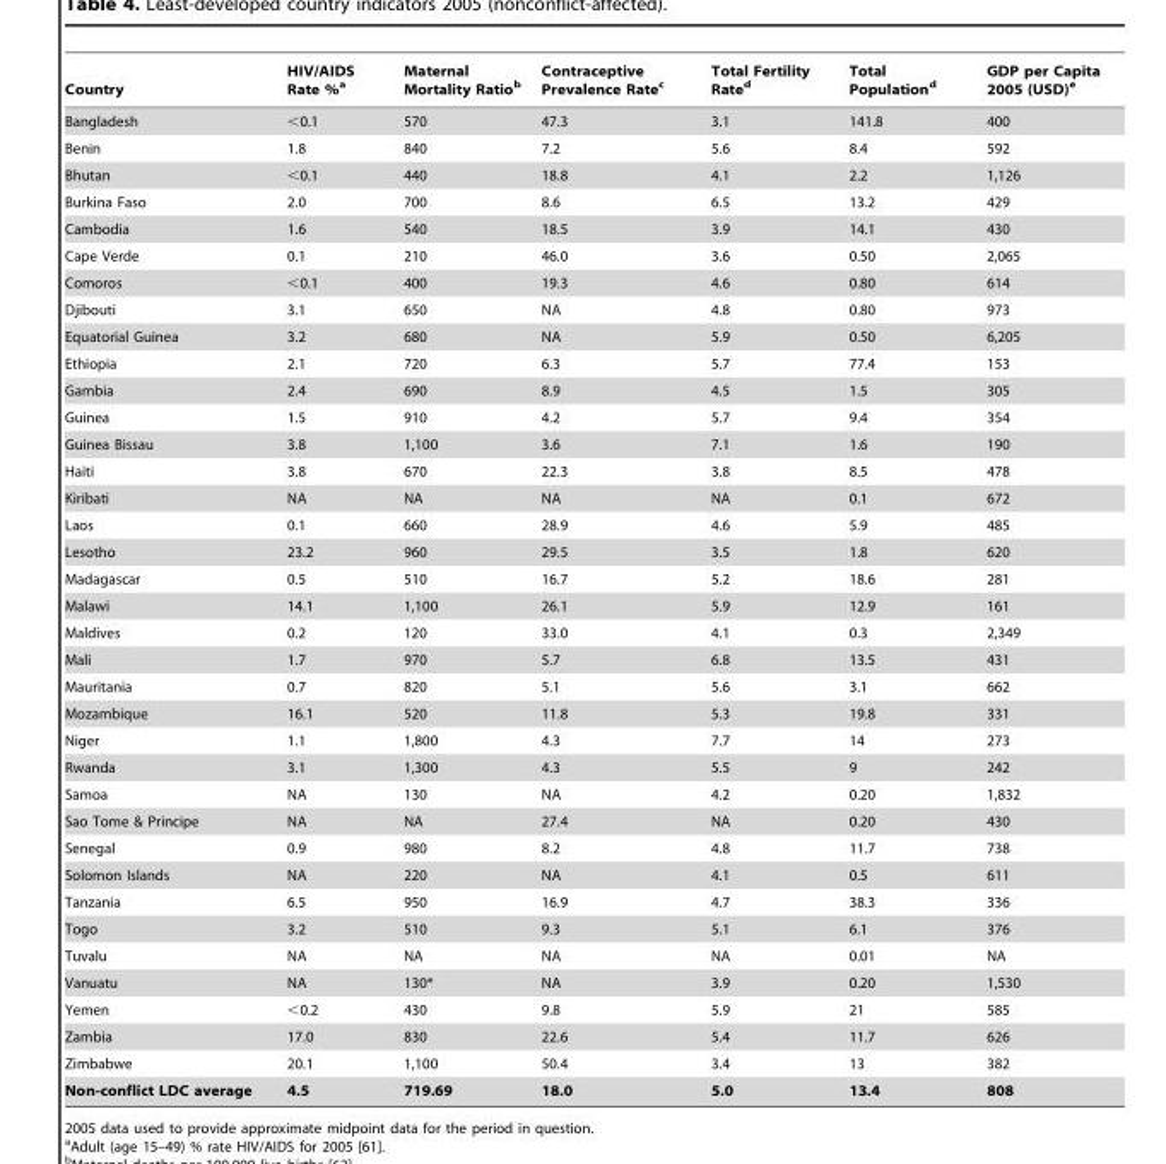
<table><thead><tr><td>Country</td><td>HIV/AIDS Rate %<sup>a</sup></td><td>Maternal Mortality Ratio<sup>b</sup></td><td>Contraceptive Prevalence Rate<sup>c</sup></td><td>Total Fertility Rate<sup>d</sup></td><td>Total Population<sup>d</sup></td><td>GDP per Capita 2005 (USD)<sup>e</sup></td></tr></thead><tbody><tr><td>Bangladesh</td><td>&lt;0.1</td><td>570</td><td>47.3</td><td>3.1</td><td>141.8</td><td>400</td></tr><tr><td>Benin</td><td>1.8</td><td>840</td><td>7.2</td><td>5.6</td><td>8.4</td><td>592</td></tr><tr><td>Bhutan</td><td>&lt;0.1</td><td>440</td><td>18.8</td><td>4.1</td><td>2.2</td><td>1,126</td></tr><tr><td>Burkina Faso</td><td>2.0</td><td>700</td><td>8.6</td><td>6.5</td><td>13.2</td><td>429</td></tr><tr><td>Cambodia</td><td>1.6</td><td>540</td><td>18.5</td><td>3.9</td><td>14.1</td><td>430</td></tr><tr><td>Cape Verde</td><td>0.1</td><td>210</td><td>46.0</td><td>3.6</td><td>0.50</td><td>2,065</td></tr><tr><td>Comoros</td><td>&lt;0.1</td><td>400</td><td>19.3</td><td>4.6</td><td>0.80</td><td>614</td></tr><tr><td>Djibouti</td><td>3.1</td><td>650</td><td>NA</td><td>4.8</td><td>0.80</td><td>973</td></tr><tr><td>Equatorial Guinea</td><td>3.2</td><td>680</td><td>NA</td><td>5.9</td><td>0.50</td><td>6,205</td></tr><tr><td>Ethiopia</td><td>2.1</td><td>720</td><td>6.3</td><td>5.7</td><td>77.4</td><td>153</td></tr><tr><td>Gambia</td><td>2.4</td><td>690</td><td>8.9</td><td>4.5</td><td>1.5</td><td>305</td></tr><tr><td>Guinea</td><td>1.5</td><td>910</td><td>4.2</td><td>5.7</td><td>9.4</td><td>354</td></tr><tr><td>Guinea Bissau</td><td>3.8</td><td>1,100</td><td>3.6</td><td>7.1</td><td>1.6</td><td>190</td></tr><tr><td>Haiti</td><td>3.8</td><td>670</td><td>22.3</td><td>3.8</td><td>8.5</td><td>478</td></tr><tr><td>Kiribati</td><td>NA</td><td>NA</td><td>NA</td><td>NA</td><td>0.1</td><td>672</td></tr><tr><td>Laos</td><td>0.1</td><td>660</td><td>28.9</td><td>4.6</td><td>5.9</td><td>485</td></tr><tr><td>Lesotho</td><td>23.2</td><td>960</td><td>29.5</td><td>3.5</td><td>1.8</td><td>620</td></tr><tr><td>Madagascar</td><td>0.5</td><td>510</td><td>16.7</td><td>5.2</td><td>18.6</td><td>281</td></tr><tr><td>Malawi</td><td>14.1</td><td>1,100</td><td>26.1</td><td>5.9</td><td>12.9</td><td>161</td></tr><tr><td>Maldives</td><td>0.2</td><td>120</td><td>33.0</td><td>4.1</td><td>0.3</td><td>2,349</td></tr><tr><td>Mali</td><td>1.7</td><td>970</td><td>5.7</td><td>6.8</td><td>13.5</td><td>431</td></tr><tr><td>Mauritania</td><td>0.7</td><td>820</td><td>5.1</td><td>5.6</td><td>3.1</td><td>662</td></tr><tr><td>Mozambique</td><td>16.1</td><td>520</td><td>11.8</td><td>5.3</td><td>19.8</td><td>331</td></tr><tr><td>Niger</td><td>1.1</td><td>1,800</td><td>4.3</td><td>7.7</td><td>14</td><td>273</td></tr><tr><td>Rwanda</td><td>3.1</td><td>1,300</td><td>4.3</td><td>5.5</td><td>9</td><td>242</td></tr><tr><td>Samoa</td><td>NA</td><td>130</td><td>NA</td><td>4.2</td><td>0.20</td><td>1,832</td></tr><tr><td>Sao Tome &amp; Principe</td><td>NA</td><td>NA</td><td>27.4</td><td>NA</td><td>0.20</td><td>430</td></tr><tr><td>Senegal</td><td>0.9</td><td>980</td><td>8.2</td><td>4.8</td><td>11.7</td><td>738</td></tr><tr><td>Solomon Islands</td><td>NA</td><td>220</td><td>NA</td><td>4.1</td><td>0.5</td><td>611</td></tr><tr><td>Tanzania</td><td>6.5</td><td>950</td><td>16.9</td><td>4.7</td><td>38.3</td><td>336</td></tr><tr><td>Togo</td><td>3.2</td><td>510</td><td>9.3</td><td>5.1</td><td>6.1</td><td>376</td></tr><tr><td>Tuvalu</td><td>NA</td><td>NA</td><td>NA</td><td>NA</td><td>0.01</td><td>NA</td></tr><tr><td>Vanuatu</td><td>NA</td><td>130*</td><td>NA</td><td>3.9</td><td>0.20</td><td>1,530</td></tr><tr><td>Yemen</td><td>&lt;0.2</td><td>430</td><td>9.8</td><td>5.9</td><td>21</td><td>585</td></tr><tr><td>Zambia</td><td>17.0</td><td>830</td><td>22.6</td><td>5.4</td><td>11.7</td><td>626</td></tr><tr><td>Zimbabwe</td><td>20.1</td><td>1,100</td><td>50.4</td><td>3.4</td><td>13</td><td>382</td></tr><tr><td>Non-conflict LDC average</td><td>4.5</td><td>719.69</td><td>18.0</td><td>5.0</td><td>13.4</td><td>808</td></tr></tbody></table>